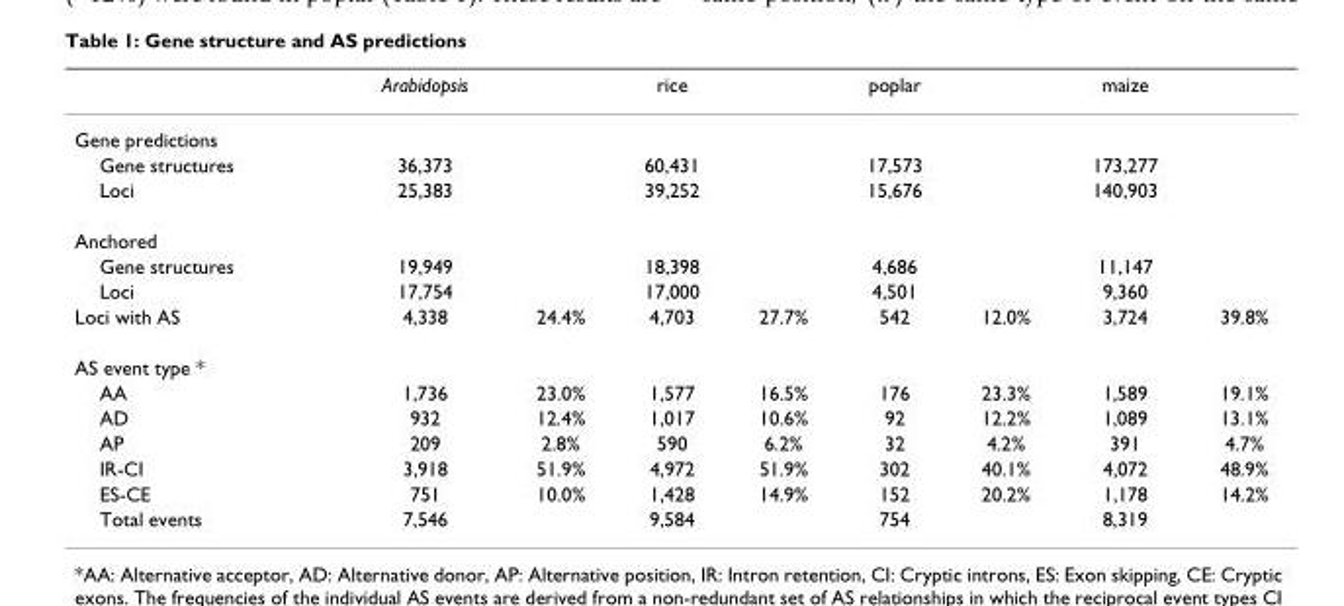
<table><thead><tr><td></td><td>Arabidopsis</td><td></td><td>rice</td><td></td><td>poplar</td><td></td><td>maize</td><td></td></tr></thead><tbody><tr><td colspan="9">Gene predictions</td></tr><tr><td>Gene structures</td><td>36,373</td><td></td><td>60,431</td><td></td><td>17,573</td><td></td><td>173,277</td><td></td></tr><tr><td>Loci</td><td>25,383</td><td></td><td>39,252</td><td></td><td>15,676</td><td></td><td>140,903</td><td></td></tr><tr><td colspan="9">Anchored</td></tr><tr><td>Gene structures</td><td>19,949</td><td></td><td>18,398</td><td></td><td>4,686</td><td></td><td>11,147</td><td></td></tr><tr><td>Loci</td><td>17,754</td><td></td><td>17,000</td><td></td><td>4,501</td><td></td><td>9,360</td><td></td></tr><tr><td>Loci with AS</td><td>4,338</td><td>24.4%</td><td>4,703</td><td>27.7%</td><td>542</td><td>12.0%</td><td>3,724</td><td>39.8%</td></tr><tr><td colspan="9">AS event type *</td></tr><tr><td>AA</td><td>1,736</td><td>23.0%</td><td>1,577</td><td>16.5%</td><td>176</td><td>23.3%</td><td>1,589</td><td>19.1%</td></tr><tr><td>AD</td><td>932</td><td>12.4%</td><td>1,017</td><td>10.6%</td><td>92</td><td>12.2%</td><td>1,089</td><td>13.1%</td></tr><tr><td>AP</td><td>209</td><td>2.8%</td><td>590</td><td>6.2%</td><td>32</td><td>4.2%</td><td>391</td><td>4.7%</td></tr><tr><td>IR-CI</td><td>3,918</td><td>51.9%</td><td>4,972</td><td>51.9%</td><td>302</td><td>40.1%</td><td>4,072</td><td>48.9%</td></tr><tr><td>ES-CE</td><td>751</td><td>10.0%</td><td>1,428</td><td>14.9%</td><td>152</td><td>20.2%</td><td>1,178</td><td>14.2%</td></tr><tr><td>Total events</td><td>7,546</td><td></td><td>9,584</td><td></td><td>754</td><td></td><td>8,319</td><td></td></tr></tbody></table>